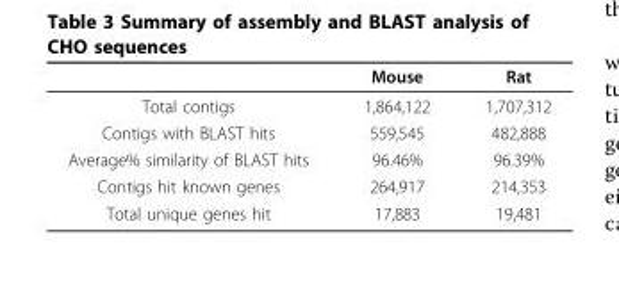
<table><thead><tr><td></td><td>Mouse</td><td>Rat</td></tr></thead><tbody><tr><td>Total contigs</td><td>1,864,122</td><td>1,707,312</td></tr><tr><td>Contigs with BLAST hits</td><td>559,545</td><td>482,888</td></tr><tr><td>Average% similarity of BLAST hits</td><td>96.46%</td><td>96.39%</td></tr><tr><td>Contigs hit known genes</td><td>264,917</td><td>214,353</td></tr><tr><td>Total unique genes hit</td><td>17,883</td><td>19,481</td></tr></tbody></table>